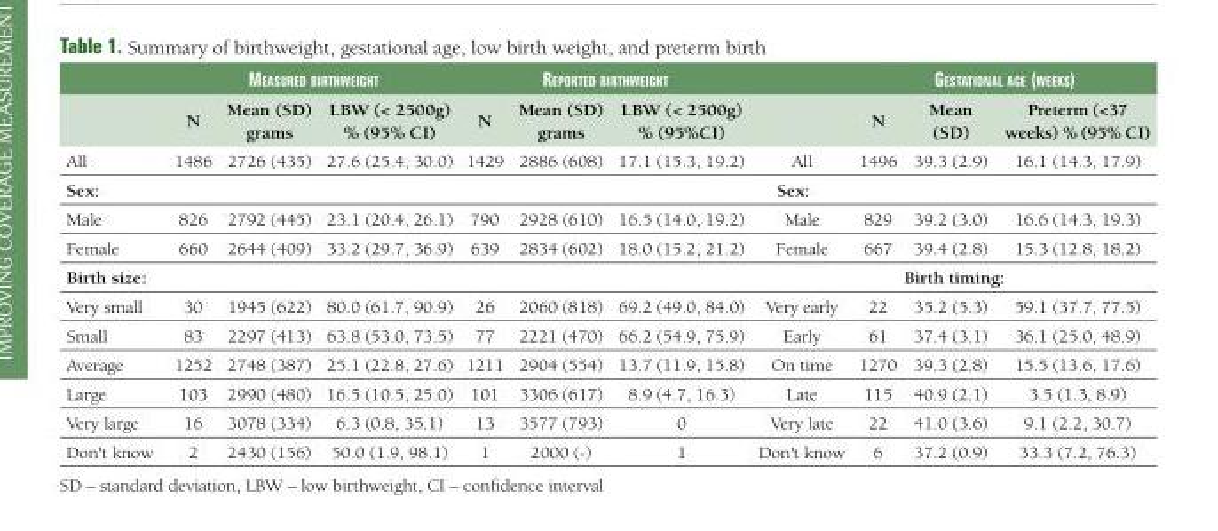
<table><thead><tr><td rowspan="2"></td><td colspan="3">Measured birthweight</td><td colspan="3">reported birthweight</td><td rowspan="2"></td><td colspan="3">gestational age (weeks)</td></tr><tr><td>N</td><td>Mean (SD) grams</td><td>LBW (&lt; 2500g) % (95% CI)</td><td>N</td><td>Mean (SD) grams</td><td>LBW (&lt; 2500g) % (95%CI)</td><td>N</td><td>Mean (SD)</td><td>Preterm (&lt;37 weeks) % (95% CI)</td></tr></thead><tbody><tr><td>All</td><td>1486</td><td>2726 (435)</td><td>27.6 (25.4, 30.0)</td><td>1429</td><td>2886 (608)</td><td>17.1 (15.3, 19.2)</td><td>All</td><td>1496</td><td>39.3 (2.9)</td><td>16.1 (14.3, 17.9)</td></tr><tr><td colspan="7">Sex:</td><td colspan="4">Sex:</td></tr><tr><td>Male</td><td>826</td><td>2792 (445)</td><td>23.1 (20.4, 26.1)</td><td>790</td><td>2928 (610)</td><td>16.5 (14.0, 19.2)</td><td>Male</td><td>829</td><td>39.2 (3.0)</td><td>16.6 (14.3, 19.3)</td></tr><tr><td>Female</td><td>660</td><td>2644 (409)</td><td>33.2 (29.7, 36.9)</td><td>639</td><td>2834 (602)</td><td>18.0 (15.2, 21.2)</td><td>Female</td><td>667</td><td>39.4 (2.8)</td><td>15.3 (12.8, 18.2)</td></tr><tr><td colspan="7">Birth size:</td><td colspan="4">Birth timing:</td></tr><tr><td>Very small</td><td>30</td><td>1945 (622)</td><td>80.0 (61.7, 90.9)</td><td>26</td><td>2060 (818)</td><td>69.2 (49.0, 84.0)</td><td>Very early</td><td>22</td><td>35.2 (5.3)</td><td>59.1 (37.7, 77.5)</td></tr><tr><td>Small</td><td>83</td><td>2297 (413)</td><td>63.8 (53.0, 73.5)</td><td>77</td><td>2221 (470)</td><td>66.2 (54.9, 75.9)</td><td>Early</td><td>61</td><td>37.4 (3.1)</td><td>36.1 (25.0, 48.9)</td></tr><tr><td>Average</td><td>1252</td><td>2748 (387)</td><td>25.1 (22.8, 27.6)</td><td>1211</td><td>2904 (554)</td><td>13.7 (11.9, 15.8)</td><td>On time</td><td>1270</td><td>39.3 (2.8)</td><td>15.5 (13.6, 17.6)</td></tr><tr><td>Large</td><td>103</td><td>2990 (480)</td><td>16.5 (10.5, 25.0)</td><td>101</td><td>3306 (617)</td><td>8.9 (4.7, 16.3)</td><td>Late</td><td>115</td><td>40.9 (2.1)</td><td>3.5 (1.3, 8.9)</td></tr><tr><td>Very large</td><td>16</td><td>3078 (334)</td><td>6.3 (0.8, 35.1)</td><td>13</td><td>3577 (793)</td><td>0</td><td>Very late</td><td>22</td><td>41.0 (3.6)</td><td>9.1 (2.2, 30.7)</td></tr><tr><td>Don&#x27;t know</td><td>2</td><td>2430 (156)</td><td>50.0 (1.9, 98.1)</td><td>1</td><td>2000 (-)</td><td>1</td><td>Don&#x27;t know</td><td>6</td><td>37.2 (0.9)</td><td>33.3 (7.2, 76.3)</td></tr></tbody></table>